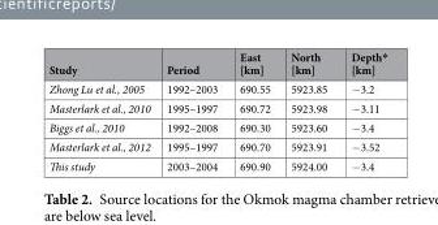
<table><thead><tr><td>Study</td><td>Period</td><td>East [km]</td><td>North [km]</td><td>Depth* [km]</td></tr></thead><tbody><tr><td>Zhong Lu et al., 2005</td><td>1992–2003</td><td>690.55</td><td>5923.85</td><td>−3.2</td></tr><tr><td>Masterlark et al., 2010</td><td>1995–1997</td><td>690.72</td><td>5923.98</td><td>−3.11</td></tr><tr><td>Biggs et al., 2010</td><td>1992–2008</td><td>690.30</td><td>5923.60</td><td>−3.4</td></tr><tr><td>Masterlark et al., 2012</td><td>1995–1997</td><td>690.70</td><td>5923.91</td><td>−3.52</td></tr><tr><td>This study</td><td>2003–2004</td><td>690.90</td><td>5924.00</td><td>−3.4</td></tr></tbody></table>